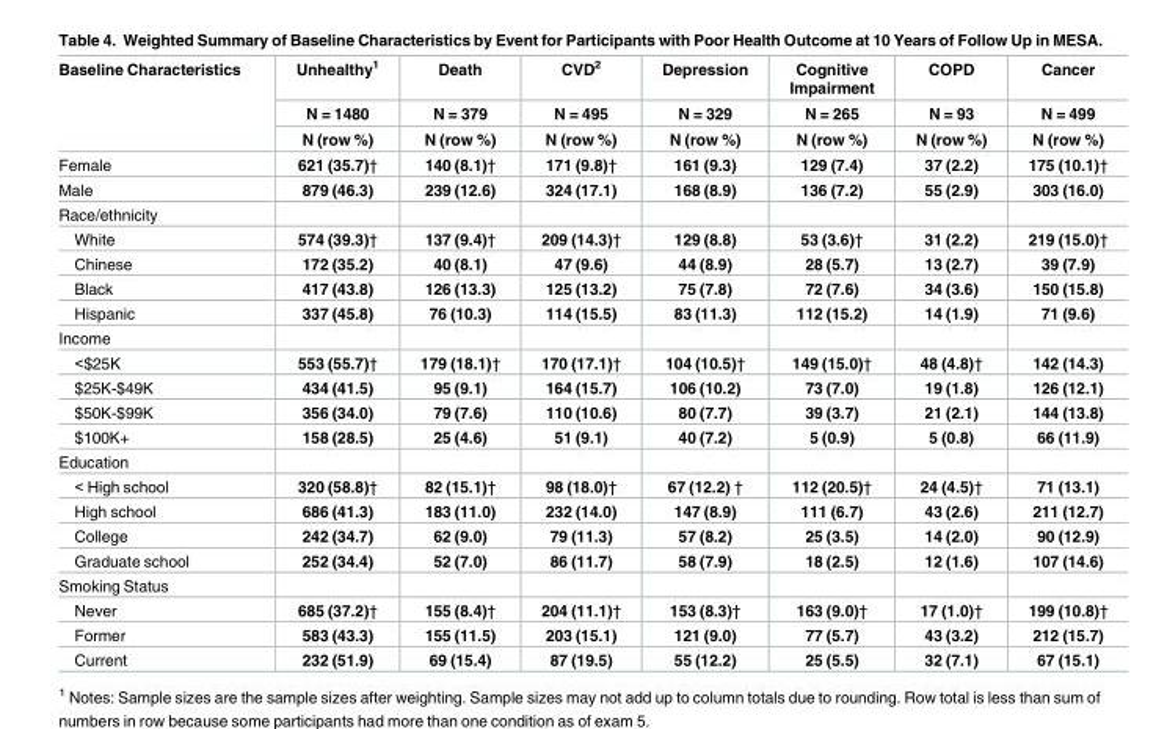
<table><thead><tr><td rowspan="3">Baseline Characteristics</td><td rowspan="3">Unhealthy<sup>1</sup> N = 1480 N (row %)</td><td rowspan="3">Death N = 379 N (row %)</td><td rowspan="3">CVD<sup>2</sup> N = 495 N (row %)</td><td rowspan="3">Depression N = 329 N (row %)</td><td rowspan="3">Cognitive Impairment N = 265 N (row %)</td><td rowspan="3">COPD N = 93 N (row %)</td><td rowspan="3">Cancer N = 499 N (row %)</td></tr><tr></tr><tr></tr></thead><tbody><tr><td>Female</td><td>621 (35.7)†</td><td>140 (8.1)†</td><td>171 (9.8)†</td><td>161 (9.3)</td><td>129 (7.4)</td><td>37 (2.2)</td><td>175 (10.1)†</td></tr><tr><td>Male</td><td>879 (46.3)</td><td>239 (12.6)</td><td>324 (17.1)</td><td>168 (8.9)</td><td>136 (7.2)</td><td>55 (2.9)</td><td>303 (16.0)</td></tr><tr><td colspan="8">Race/ethnicity</td></tr><tr><td>White</td><td>574 (39.3)†</td><td>137 (9.4)†</td><td>209 (14.3)†</td><td>129 (8.8)</td><td>53 (3.6)†</td><td>31 (2.2)</td><td>219 (15.0)†</td></tr><tr><td>Chinese</td><td>172 (35.2)</td><td>40 (8.1)</td><td>47 (9.6)</td><td>44 (8.9)</td><td>28 (5.7)</td><td>13 (2.7)</td><td>39 (7.9)</td></tr><tr><td>Black</td><td>417 (43.8)</td><td>126 (13.3)</td><td>125 (13.2)</td><td>75 (7.8)</td><td>72 (7.6)</td><td>34 (3.6)</td><td>150 (15.8)</td></tr><tr><td>Hispanic</td><td>337 (45.8)</td><td>76 (10.3)</td><td>114 (15.5)</td><td>83 (11.3)</td><td>112 (15.2)</td><td>14 (1.9)</td><td>71 (9.6)</td></tr><tr><td colspan="8">Income</td></tr><tr><td>&lt;$25K</td><td>553 (55.7)†</td><td>179 (18.1)†</td><td>170 (17.1)†</td><td>104 (10.5)†</td><td>149 (15.0)†</td><td>48 (4.8)†</td><td>142 (14.3)</td></tr><tr><td>$25K-$49K</td><td>434 (41.5)</td><td>95 (9.1)</td><td>164 (15.7)</td><td>106 (10.2)</td><td>73 (7.0)</td><td>19 (1.8)</td><td>126 (12.1)</td></tr><tr><td>$50K-$99K</td><td>356 (34.0)</td><td>79 (7.6)</td><td>110 (10.6)</td><td>80 (7.7)</td><td>39 (3.7)</td><td>21 (2.1)</td><td>144 (13.8)</td></tr><tr><td>$100K+</td><td>158 (28.5)</td><td>25 (4.6)</td><td>51 (9.1)</td><td>40 (7.2)</td><td>5 (0.9)</td><td>5 (0.8)</td><td>66 (11.9)</td></tr><tr><td colspan="8">Education</td></tr><tr><td>&lt; High school</td><td>320 (58.8)†</td><td>82 (15.1)†</td><td>98 (18.0)†</td><td>67 (12.2) †</td><td>112 (20.5)†</td><td>24 (4.5)†</td><td>71 (13.1)</td></tr><tr><td>High school</td><td>686 (41.3)</td><td>183 (11.0)</td><td>232 (14.0)</td><td>147 (8.9)</td><td>111 (6.7)</td><td>43 (2.6)</td><td>211 (12.7)</td></tr><tr><td>College</td><td>242 (34.7)</td><td>62 (9.0)</td><td>79 (11.3)</td><td>57 (8.2)</td><td>25 (3.5)</td><td>14 (2.0)</td><td>90 (12.9)</td></tr><tr><td>Graduate school</td><td>252 (34.4)</td><td>52 (7.0)</td><td>86 (11.7)</td><td>58 (7.9)</td><td>18 (2.5)</td><td>12 (1.6)</td><td>107 (14.6)</td></tr><tr><td colspan="8">Smoking Status</td></tr><tr><td>Never</td><td>685 (37.2)†</td><td>155 (8.4)†</td><td>204 (11.1)†</td><td>153 (8.3)†</td><td>163 (9.0)†</td><td>17 (1.0)†</td><td>199 (10.8)†</td></tr><tr><td>Former</td><td>583 (43.3)</td><td>155 (11.5)</td><td>203 (15.1)</td><td>121 (9.0)</td><td>77 (5.7)</td><td>43 (3.2)</td><td>212 (15.7)</td></tr><tr><td>Current</td><td>232 (51.9)</td><td>69 (15.4)</td><td>87 (19.5)</td><td>55 (12.2)</td><td>25 (5.5)</td><td>32 (7.1)</td><td>67 (15.1)</td></tr></tbody></table>